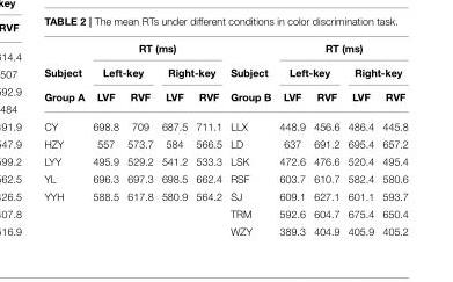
<table><thead><tr><td rowspan="3">Subject Group A</td><td colspan="4">RT (ms)</td><td rowspan="3">Subject Group B</td><td colspan="4">RT (ms)</td></tr><tr><td colspan="2">Left-key</td><td colspan="2">Right-key</td><td colspan="2">Left-key</td><td colspan="2">Right-key</td></tr><tr><td>LVF</td><td>RVF</td><td>LVF</td><td>RVF</td><td>LVF</td><td>RVF</td><td>LVF</td><td>RVF</td></tr></thead><tbody><tr><td>CY</td><td>698.8</td><td>709</td><td>687.5</td><td>711.1</td><td>LLX</td><td>448.9</td><td>456.6</td><td>486.4</td><td>445.8</td></tr><tr><td>HZY</td><td>557</td><td>573.7</td><td>584</td><td>566.5</td><td>LD</td><td>637</td><td>691.2</td><td>695.4</td><td>657.2</td></tr><tr><td>LYY</td><td>495.9</td><td>529.2</td><td>541.2</td><td>533.3</td><td>LSK</td><td>472.6</td><td>476.6</td><td>520.4</td><td>495.4</td></tr><tr><td>YL</td><td>696.3</td><td>697.3</td><td>698.5</td><td>662.4</td><td>RSF</td><td>603.7</td><td>610.7</td><td>582.4</td><td>580.6</td></tr><tr><td rowspan="3">YYH</td><td>588.5</td><td>617.8</td><td>580.9</td><td>564.2</td><td>SJ</td><td>609.1</td><td>627.1</td><td>601.1</td><td>593.7</td></tr><tr><td></td><td></td><td></td><td></td><td>TRM</td><td>592.6</td><td>604.7</td><td>675.4</td><td>650.4</td></tr><tr><td></td><td></td><td></td><td></td><td>WZY</td><td>389.3</td><td>404.9</td><td>405.9</td><td>405.2</td></tr></tbody></table>